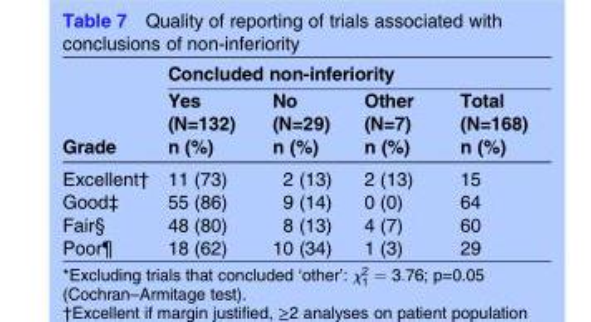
<table><thead><tr><td rowspan="3">Grade</td><td colspan="4">Concluded non-inferiority</td></tr><tr><td rowspan="2">Yes (N=132) n (%)</td><td rowspan="2">No (N=29) n (%)</td><td rowspan="2">Other (N=7) n (%)</td><td rowspan="2">Total (N=168) n (%)</td></tr><tr></tr></thead><tbody><tr><td>Excellent†</td><td>11 (73)</td><td>2 (13)</td><td>2 (13)</td><td>15</td></tr><tr><td>Good‡</td><td>55 (86)</td><td>9 (14)</td><td>0 (0)</td><td>64</td></tr><tr><td>Fair§</td><td>48 (80)</td><td>8 (13)</td><td>4 (7)</td><td>60</td></tr><tr><td>Poor¶</td><td>18 (62)</td><td>10 (34)</td><td>1 (3)</td><td>29</td></tr></tbody></table>